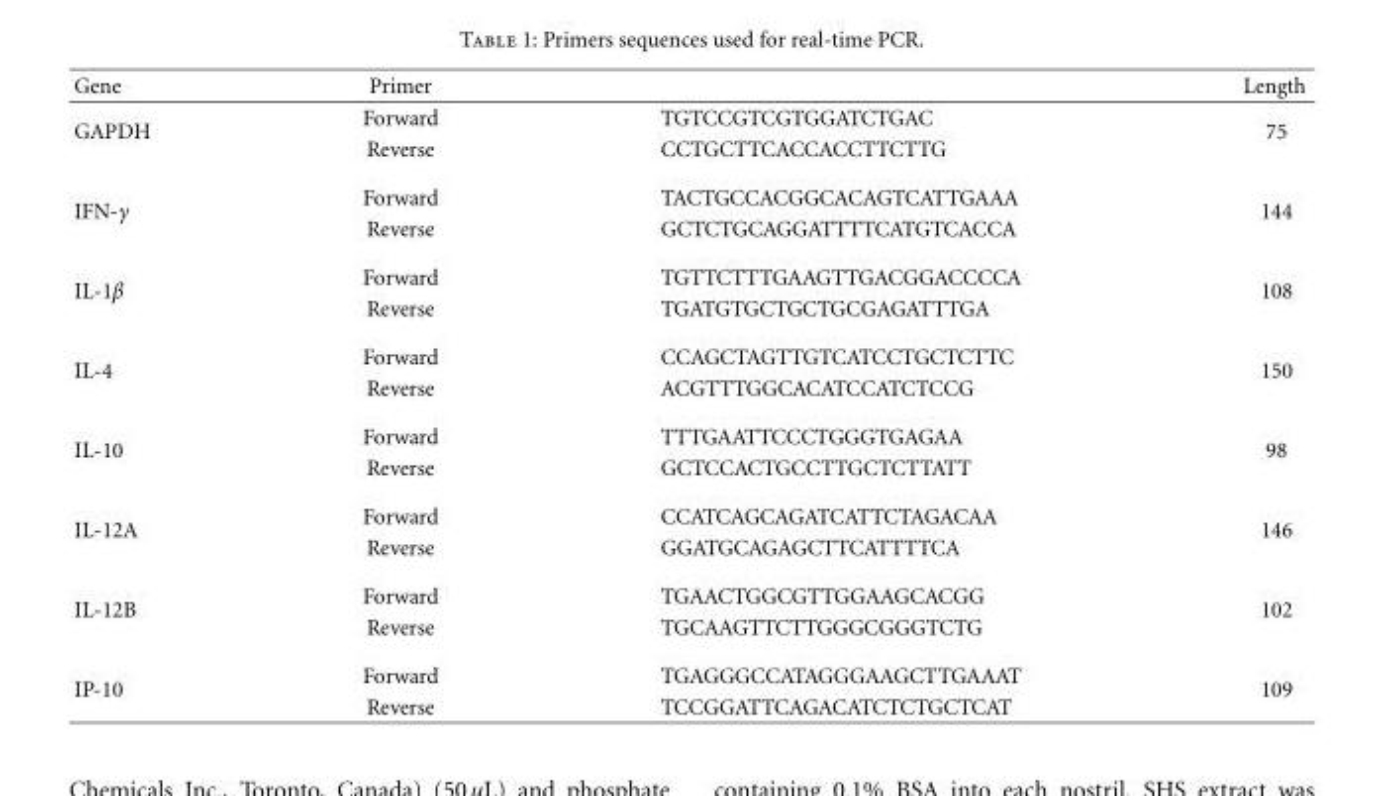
<table><thead><tr><td>Gene</td><td>Primer</td><td></td><td>Length</td></tr></thead><tbody><tr><td rowspan="2">GAPDH</td><td>Forward</td><td>TGTCCGTCGTGGATCTGAC</td><td rowspan="2">75</td></tr><tr><td>Reverse</td><td>CCTGCTTCACCACCTTCTTG</td></tr><tr><td rowspan="2">IFN-γ</td><td>Forward</td><td>TACTGCCACGGCACAGTCATTGAAA</td><td rowspan="2">144</td></tr><tr><td>Reverse</td><td>GCTCTGCAGGATTTTCATGTCACCA</td></tr><tr><td rowspan="2">IL-1β</td><td>Forward</td><td>TGTTCTTTGAAGTTGACGGACCCCA</td><td rowspan="2">108</td></tr><tr><td>Reverse</td><td>TGATGTGCTGCTGCGAGATTTGA</td></tr><tr><td rowspan="2">IL-4</td><td>Forward</td><td>CCAGCTAGTTGTCATCCTGCTCTTC</td><td rowspan="2">150</td></tr><tr><td>Reverse</td><td>ACGTTTGGCACATCCATCTCCG</td></tr><tr><td rowspan="2">IL-10</td><td>Forward</td><td>TTTGAATTCCCTGGGTGAGAA</td><td rowspan="2">98</td></tr><tr><td>Reverse</td><td>GCTCCACTGCCTTGCTCTTATT</td></tr><tr><td rowspan="2">IL-12A</td><td>Forward</td><td>CCATCAGCAGATCATTCTAGACAA</td><td rowspan="2">146</td></tr><tr><td>Reverse</td><td>GGATGCAGAGCTTCATTTTCA</td></tr><tr><td rowspan="2">IL-12B</td><td>Forward</td><td>TGAACTGGCGTTGGAAGCACGG</td><td rowspan="2">102</td></tr><tr><td>Reverse</td><td>TGCAAGTTCTTGGGCGGGTCTG</td></tr><tr><td rowspan="2">IP-10</td><td>Forward</td><td>TGAGGGCCATAGGGAAGCTTGAAAT</td><td rowspan="2">109</td></tr><tr><td>Reverse</td><td>TCCGGATTCAGACATCTCTGCTCAT</td></tr></tbody></table>